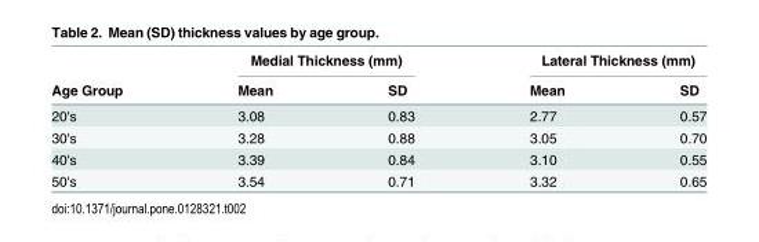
<table><thead><tr><td rowspan="2">Age Group</td><td colspan="2">Medial Thickness (mm)</td><td colspan="2">Lateral Thickness (mm)</td></tr><tr><td>Mean</td><td>SD</td><td>Mean</td><td>SD</td></tr></thead><tbody><tr><td>20&#x27;s</td><td>3.08</td><td>0.83</td><td>2.77</td><td>0.57</td></tr><tr><td>30&#x27;s</td><td>3.28</td><td>0.88</td><td>3.05</td><td>0.70</td></tr><tr><td>40&#x27;s</td><td>3.39</td><td>0.84</td><td>3.10</td><td>0.55</td></tr><tr><td>50&#x27;s</td><td>3.54</td><td>0.71</td><td>3.32</td><td>0.65</td></tr></tbody></table>